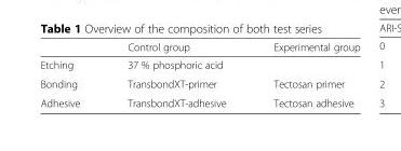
<table><thead><tr><td></td><td>Control group</td><td>Experimental group</td></tr></thead><tbody><tr><td>Etching</td><td>37 % phosphoric acid</td><td></td></tr><tr><td>Bonding</td><td>TransbondXT-primer</td><td>Tectosan primer</td></tr><tr><td>Adhesive</td><td>TransbondXT-adhesive</td><td>Tectosan adhesive</td></tr></tbody></table>